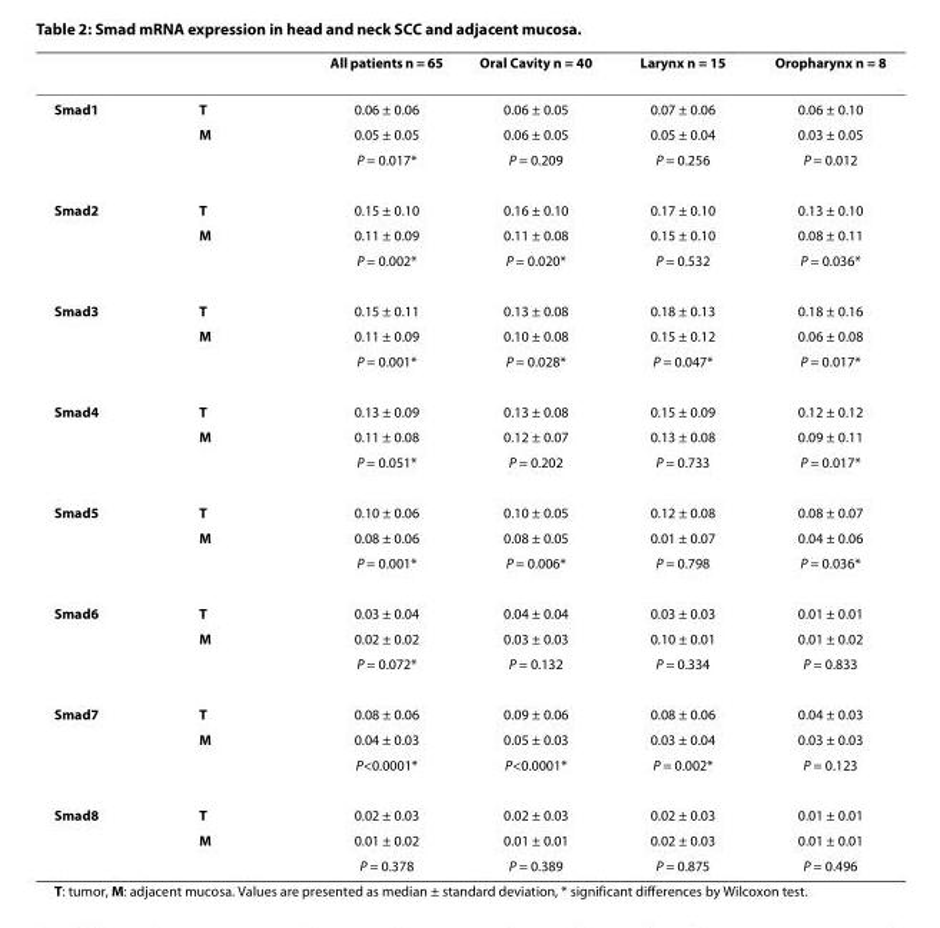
<table><thead><tr><td></td><td></td><td>All patients n = 65</td><td>Oral Cavity n = 40</td><td>Larynx n = 15</td><td>Oropharynx n = 8</td></tr></thead><tbody><tr><td rowspan="3">Smad1</td><td>T</td><td>0.06 ± 0.06</td><td>0.06 ± 0.05</td><td>0.07 ± 0.06</td><td>0.06 ± 0.10</td></tr><tr><td>M</td><td>0.05 ± 0.05</td><td>0.06 ± 0.05</td><td>0.05 ± 0.04</td><td>0.03 ± 0.05</td></tr><tr><td></td><td>P = 0.017*</td><td>P = 0.209</td><td>P = 0.256</td><td>P = 0.012</td></tr><tr><td rowspan="3">Smad2</td><td>T</td><td>0.15 ± 0.10</td><td>0.16 ± 0.10</td><td>0.17 ± 0.10</td><td>0.13 ± 0.10</td></tr><tr><td>M</td><td>0.11 ± 0.09</td><td>0.11 ± 0.08</td><td>0.15 ± 0.10</td><td>0.08 ± 0.11</td></tr><tr><td></td><td>P = 0.002*</td><td>P = 0.020*</td><td>P = 0.532</td><td>P = 0.036*</td></tr><tr><td rowspan="3">Smad3</td><td>T</td><td>0.15 ± 0.11</td><td>0.13 ± 0.08</td><td>0.18 ± 0.13</td><td>0.18 ± 0.16</td></tr><tr><td>M</td><td>0.11 ± 0.09</td><td>0.10 ± 0.08</td><td>0.15 ± 0.12</td><td>0.06 ± 0.08</td></tr><tr><td></td><td>P = 0.001*</td><td>P = 0.028*</td><td>P = 0.047*</td><td>P = 0.017*</td></tr><tr><td rowspan="3">Smad4</td><td>T</td><td>0.13 ± 0.09</td><td>0.13 ± 0.08</td><td>0.15 ± 0.09</td><td>0.12 ± 0.12</td></tr><tr><td>M</td><td>0.11 ± 0.08</td><td>0.12 ± 0.07</td><td>0.13 ± 0.08</td><td>0.09 ± 0.11</td></tr><tr><td></td><td>P = 0.051*</td><td>P = 0.202</td><td>P = 0.733</td><td>P = 0.017*</td></tr><tr><td rowspan="3">Smad5</td><td>T</td><td>0.10 ± 0.06</td><td>0.10 ± 0.05</td><td>0.12 ± 0.08</td><td>0.08 ± 0.07</td></tr><tr><td>M</td><td>0.08 ± 0.06</td><td>0.08 ± 0.05</td><td>0.01 ± 0.07</td><td>0.04 ± 0.06</td></tr><tr><td></td><td>P = 0.001*</td><td>P = 0.006*</td><td>P = 0.798</td><td>P = 0.036*</td></tr><tr><td rowspan="3">Smad6</td><td>T</td><td>0.03 ± 0.04</td><td>0.04 ± 0.04</td><td>0.03 ± 0.03</td><td>0.01 ± 0.01</td></tr><tr><td>M</td><td>0.02 ± 0.02</td><td>0.03 ± 0.03</td><td>0.10 ± 0.01</td><td>0.01 ± 0.02</td></tr><tr><td></td><td>P = 0.072*</td><td>P = 0.132</td><td>P = 0.334</td><td>P = 0.833</td></tr><tr><td rowspan="3">Smad7</td><td>T</td><td>0.08 ± 0.06</td><td>0.09 ± 0.06</td><td>0.08 ± 0.06</td><td>0.04 ± 0.03</td></tr><tr><td>M</td><td>0.04 ± 0.03</td><td>0.05 ± 0.03</td><td>0.03 ± 0.04</td><td>0.03 ± 0.03</td></tr><tr><td></td><td>P&lt;0.0001*</td><td>P&lt;0.0001*</td><td>P = 0.002*</td><td>P = 0.123</td></tr><tr><td rowspan="3">Smad8</td><td>T</td><td>0.02 ± 0.03</td><td>0.02 ± 0.03</td><td>0.02 ± 0.03</td><td>0.01 ± 0.01</td></tr><tr><td>M</td><td>0.01 ± 0.02</td><td>0.01 ± 0.01</td><td>0.02 ± 0.03</td><td>0.01 ± 0.01</td></tr><tr><td></td><td>P = 0.378</td><td>P = 0.389</td><td>P = 0.875</td><td>P = 0.496</td></tr></tbody></table>